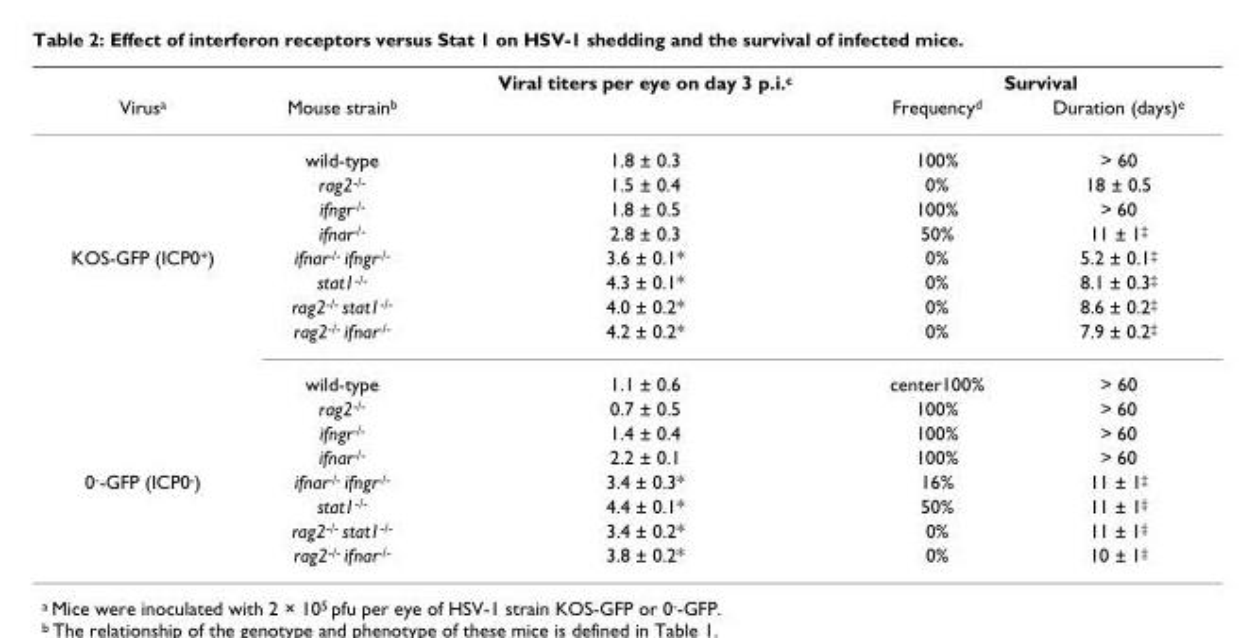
<table><thead><tr><td rowspan="2">Virus<sup>a</sup></td><td rowspan="2">Mouse strain<sup>b</sup></td><td rowspan="2">Viral titers per eye on day 3 p.i.<sup>c</sup></td><td colspan="2">Survival</td></tr><tr><td>Frequency<sup>d</sup></td><td>Duration (days)<sup>e</sup></td></tr></thead><tbody><tr><td></td><td>wild-type</td><td>1.8 ± 0.3</td><td>100%</td><td>&gt; 60</td></tr><tr><td></td><td>rag2<sup>-/-</sup></td><td>1.5 ± 0.4</td><td>0%</td><td>18 ± 0.5</td></tr><tr><td></td><td>ifngr<sup>-/-</sup></td><td>1.8 ± 0.5</td><td>100%</td><td>&gt; 60</td></tr><tr><td></td><td>ifnar<sup>-/-</sup></td><td>2.8 ± 0.3</td><td>50%</td><td>11 ± 1<sup>‡</sup></td></tr><tr><td rowspan="8">KOS-GFP (ICP0<sup>+</sup>)</td><td>ifnar<sup>-/-</sup> ifngr<sup>-/-</sup></td><td>3.6 ± 0.1*</td><td>0%</td><td>5.2 ± 0.1<sup>‡</sup></td></tr><tr><td>stat1<sup>-/-</sup></td><td>4.3 ± 0.1*</td><td>0%</td><td>8.1 ± 0.3<sup>‡</sup></td></tr><tr><td>rag2<sup>-/-</sup> stat1<sup>-/-</sup></td><td>4.0 ± 0.2*</td><td>0%</td><td>8.6 ± 0.2<sup>‡</sup></td></tr><tr><td>rag2<sup>-/-</sup> ifnar<sup>-/-</sup></td><td>4.2 ± 0.2*</td><td>0%</td><td>7.9 ± 0.2<sup>‡</sup></td></tr><tr><td>wild-type</td><td>1.1 ± 0.6</td><td>center100%</td><td>&gt; 60</td></tr><tr><td>rag2<sup>-/-</sup></td><td>0.7 ± 0.5</td><td>100%</td><td>&gt; 60</td></tr><tr><td>ifngr<sup>-/-</sup></td><td>1.4 ± 0.4</td><td>100%</td><td>&gt; 60</td></tr><tr><td>ifnar<sup>-/-</sup></td><td>2.2 ± 0.1</td><td>100%</td><td>&gt; 60</td></tr><tr><td rowspan="4">0<sup>-</sup>-GFP (ICP0<sup>-</sup>)</td><td>ifnar<sup>-/-</sup> ifngr<sup>-/-</sup></td><td>3.4 ± 0.3*</td><td>16%</td><td>11 ± 1<sup>‡</sup></td></tr><tr><td>stat1<sup>-/-</sup></td><td>4.4 ± 0.1*</td><td>50%</td><td>11 ± 1<sup>‡</sup></td></tr><tr><td>rag2<sup>-/-</sup> stat1<sup>-/-</sup></td><td>3.4 ± 0.2*</td><td>0%</td><td>11 ± 1<sup>‡</sup></td></tr><tr><td>rag2<sup>-/-</sup> ifnar<sup>-/-</sup></td><td>3.8 ± 0.2*</td><td>0%</td><td>10 ± 1<sup>‡</sup></td></tr></tbody></table>